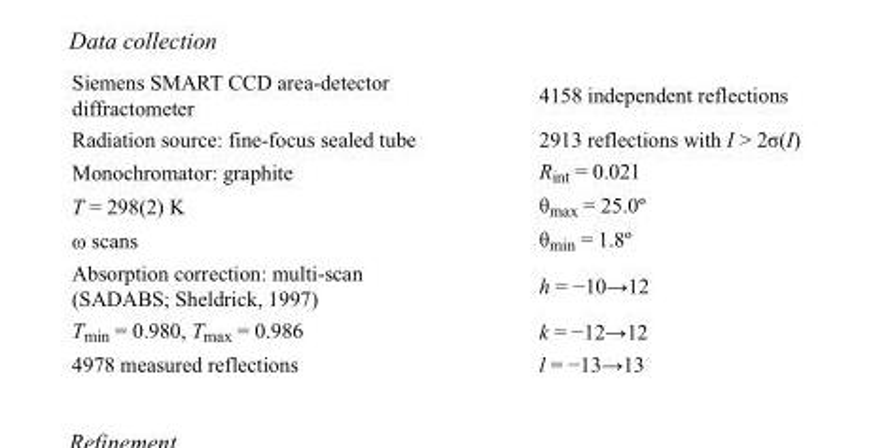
<table><tbody><tr><td>Siemens SMART CCD area-detector diffractometer</td><td>4158 independent reflections</td></tr><tr><td>Radiation source: fine-focus sealed tube</td><td>2913 reflections with I &gt; 2σ(I)</td></tr><tr><td>Monochromator: graphite</td><td>R<sub>int</sub> = 0.021</td></tr><tr><td>T = 298(2) K</td><td>θ<sub>max</sub> = 25.0º</td></tr><tr><td>ω scans</td><td>θ<sub>min</sub> = 1.8º</td></tr><tr><td>Absorption correction: multi-scan (SADABS; Sheldrick, 1997)</td><td>h = −10→12</td></tr><tr><td>T<sub>min</sub> = 0.980, T<sub>max</sub> = 0.986</td><td>k = −12→12</td></tr><tr><td>4978 measured reflections</td><td>l = −13→13</td></tr></tbody></table>